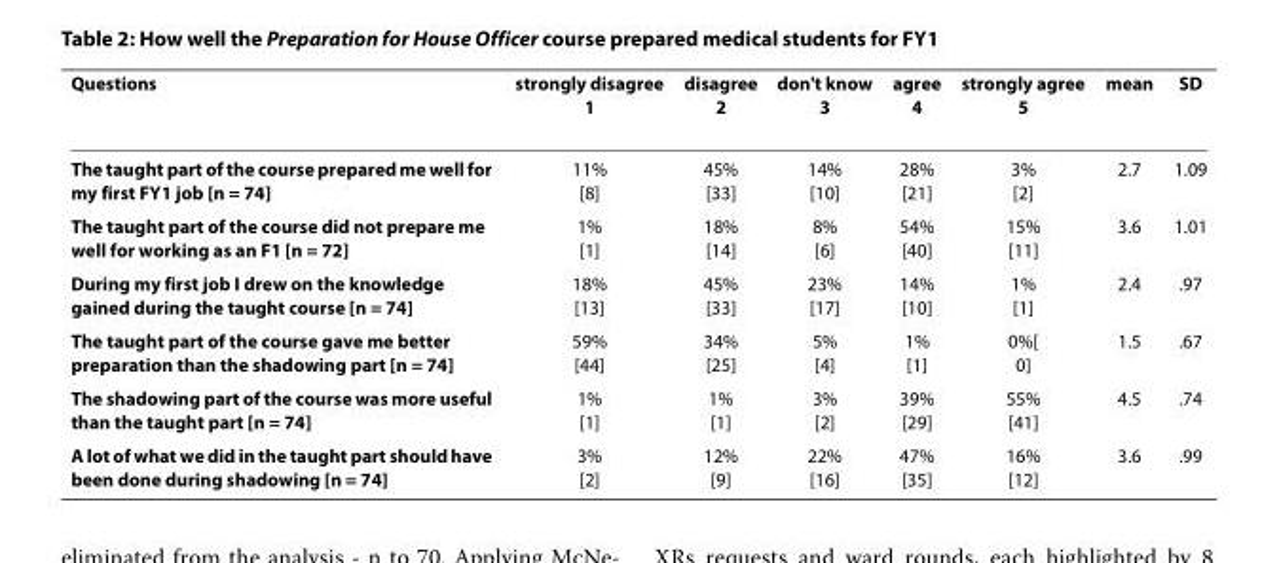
<table><thead><tr><td>Questions</td><td>strongly disagree 1</td><td>disagree 2</td><td>don&#x27;t know 3</td><td>agree 4</td><td>strongly agree 5</td><td>mean</td><td>SD</td></tr></thead><tbody><tr><td>The taught part of the course prepared me well for my first FY1 job [n = 74]</td><td>11% [8]</td><td>45% [33]</td><td>14% [10]</td><td>28% [21]</td><td>3% [2]</td><td>2.7</td><td>1.09</td></tr><tr><td>The taught part of the course did not prepare me well for working as an F1 [n = 72]</td><td>1% [1]</td><td>18% [14]</td><td>8% [6]</td><td>54% [40]</td><td>15% [11]</td><td>3.6</td><td>1.01</td></tr><tr><td>During my first job I drew on the knowledge gained during the taught course [n = 74]</td><td>18% [13]</td><td>45% [33]</td><td>23% [17]</td><td>14% [10]</td><td>1% [1]</td><td>2.4</td><td>.97</td></tr><tr><td>The taught part of the course gave me better preparation than the shadowing part [n = 74]</td><td>59% [44]</td><td>34% [25]</td><td>5% [4]</td><td>1% [1]</td><td>0%[ 0]</td><td>1.5</td><td>.67</td></tr><tr><td>The shadowing part of the course was more useful than the taught part [n = 74]</td><td>1% [1]</td><td>1% [1]</td><td>3% [2]</td><td>39% [29]</td><td>55% [41]</td><td>4.5</td><td>.74</td></tr><tr><td>A lot of what we did in the taught part should have been done during shadowing [n = 74]</td><td>3% [2]</td><td>12% [9]</td><td>22% [16]</td><td>47% [35]</td><td>16% [12]</td><td>3.6</td><td>.99</td></tr></tbody></table>